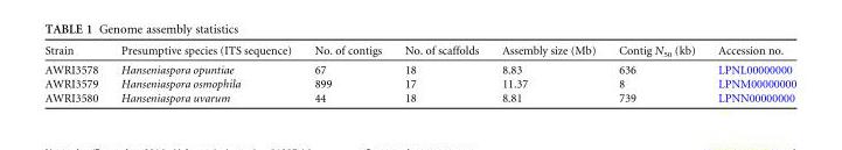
<table><thead><tr><td>Strain</td><td>Presumptive species (ITS sequence)</td><td>No. of contigs</td><td>No. of scaffolds</td><td>Assembly size (Mb)</td><td>Contig N<sub>50</sub> (kb)</td><td>Accession no.</td></tr></thead><tbody><tr><td>AWRI3578</td><td>Hanseniaspora opuntiae</td><td>67</td><td>18</td><td>8.83</td><td>636</td><td>LPNL00000000</td></tr><tr><td>AWRI3579</td><td>Hanseniaspora osmophila</td><td>899</td><td>17</td><td>11.37</td><td>8</td><td>LPNM00000000</td></tr><tr><td>AWRI3580</td><td>Hanseniaspora uvarum</td><td>44</td><td>18</td><td>8.81</td><td>739</td><td>LPNN00000000</td></tr></tbody></table>